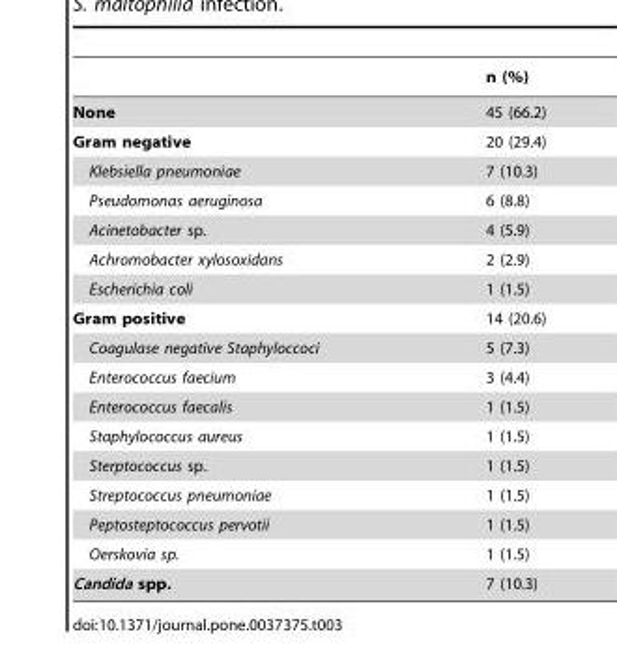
<table><thead><tr><td></td><td>n (%)</td></tr></thead><tbody><tr><td>None</td><td>45 (66.2)</td></tr><tr><td>Gram negative</td><td>20 (29.4)</td></tr><tr><td>Klebsiella pneumoniae</td><td>7 (10.3)</td></tr><tr><td>Pseudomonas aeruginosa</td><td>6 (8.8)</td></tr><tr><td>Acinetobacter sp.</td><td>4 (5.9)</td></tr><tr><td>Achromobacter xylosoxidans</td><td>2 (2.9)</td></tr><tr><td>Escherichia coli</td><td>1 (1.5)</td></tr><tr><td>Gram positive</td><td>14 (20.6)</td></tr><tr><td>Coagulase negative Staphyloccoci</td><td>5 (7.3)</td></tr><tr><td>Enterococcus faecium</td><td>3 (4.4)</td></tr><tr><td>Enterococcus faecalis</td><td>1 (1.5)</td></tr><tr><td>Staphylococcus aureus</td><td>1 (1.5)</td></tr><tr><td>Sterptococcus sp.</td><td>1 (1.5)</td></tr><tr><td>Streptococcus pneumoniae</td><td>1 (1.5)</td></tr><tr><td>Peptosteptococcus pervotii</td><td>1 (1.5)</td></tr><tr><td>Oerskovia sp.</td><td>1 (1.5)</td></tr><tr><td>Candida spp.</td><td>7 (10.3)</td></tr></tbody></table>